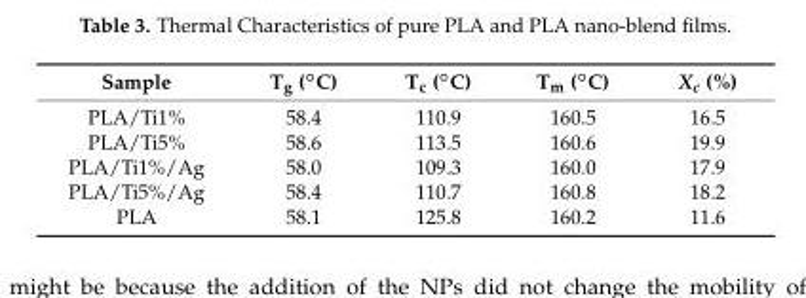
<table><thead><tr><td>Sample</td><td>Tg (◦C)</td><td>Tc (◦C)</td><td>Tm (◦C)</td><td>X<sub>c</sub> (%)</td></tr></thead><tbody><tr><td>PLA/Ti1%</td><td>58.4</td><td>110.9</td><td>160.5</td><td>16.5</td></tr><tr><td>PLA/Ti5%</td><td>58.6</td><td>113.5</td><td>160.6</td><td>19.9</td></tr><tr><td>PLA/Ti1%/Ag</td><td>58.0</td><td>109.3</td><td>160.0</td><td>17.9</td></tr><tr><td>PLA/Ti5%/Ag</td><td>58.4</td><td>110.7</td><td>160.8</td><td>18.2</td></tr><tr><td>PLA</td><td>58.1</td><td>125.8</td><td>160.2</td><td>11.6</td></tr></tbody></table>